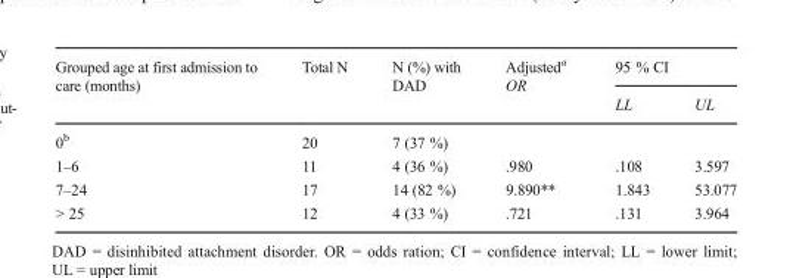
<table><thead><tr><td rowspan="2">Grouped age at first admission to care (months)</td><td rowspan="2">Total N</td><td rowspan="2">N (%) with DAD</td><td rowspan="2">Adjusted<sup>a</sup> OR</td><td colspan="2">95 % CI</td></tr><tr><td>LL</td><td>UL</td></tr></thead><tbody><tr><td>0<sup>b</sup></td><td>20</td><td>7 (37 %)</td><td></td><td></td><td></td></tr><tr><td>1–6</td><td>11</td><td>4 (36 %)</td><td>.980</td><td>.108</td><td>3.597</td></tr><tr><td>7–24</td><td>17</td><td>14 (82 %)</td><td>9.890**</td><td>1.843</td><td>53.077</td></tr><tr><td>&gt; 25</td><td>12</td><td>4 (33 %)</td><td>.721</td><td>.131</td><td>3.964</td></tr></tbody></table>